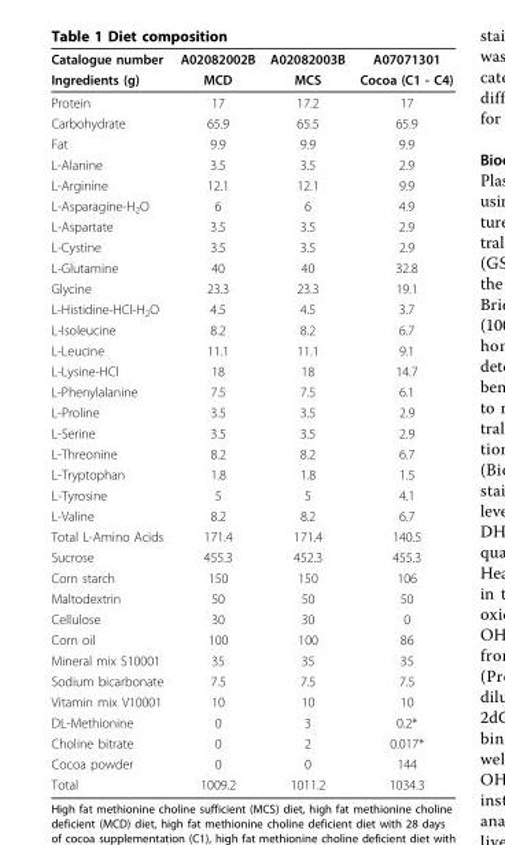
<table><thead><tr><td rowspan="2">Catalogue number Ingredients (g)</td><td rowspan="2">A02082002B MCD</td><td rowspan="2">A02082003B MCS</td><td rowspan="2">A07071301 Cocoa (C1 - C4)</td></tr><tr></tr></thead><tbody><tr><td>Protein</td><td>17</td><td>17.2</td><td>17</td></tr><tr><td>Carbohydrate</td><td>65.9</td><td>65.5</td><td>65.9</td></tr><tr><td>Fat</td><td>9.9</td><td>9.9</td><td>9.9</td></tr><tr><td>L-Alanine</td><td>3.5</td><td>3.5</td><td>2.9</td></tr><tr><td>L-Arginine</td><td>12.1</td><td>12.1</td><td>9.9</td></tr><tr><td>L-Asparagine-H<sub>2</sub>O</td><td>6</td><td>6</td><td>4.9</td></tr><tr><td>L-Aspartate</td><td>3.5</td><td>3.5</td><td>2.9</td></tr><tr><td>L-Cystine</td><td>3.5</td><td>3.5</td><td>2.9</td></tr><tr><td>L-Glutamine</td><td>40</td><td>40</td><td>32.8</td></tr><tr><td>Glycine</td><td>23.3</td><td>23.3</td><td>19.1</td></tr><tr><td>L-Histidine-HCl-H<sub>2</sub>O</td><td>4.5</td><td>4.5</td><td>3.7</td></tr><tr><td>L-Isoleucine</td><td>8.2</td><td>8.2</td><td>6.7</td></tr><tr><td>L-Leucine</td><td>11.1</td><td>11.1</td><td>9.1</td></tr><tr><td>L-Lysine-HCl</td><td>18</td><td>18</td><td>14.7</td></tr><tr><td>L-Phenylalanine</td><td>7.5</td><td>7.5</td><td>6.1</td></tr><tr><td>L-Proline</td><td>3.5</td><td>3.5</td><td>2.9</td></tr><tr><td>L-Serine</td><td>3.5</td><td>3.5</td><td>2.9</td></tr><tr><td>L-Threonine</td><td>8.2</td><td>8.2</td><td>6.7</td></tr><tr><td>L-Tryptophan</td><td>1.8</td><td>1.8</td><td>1.5</td></tr><tr><td>L-Tyrosine</td><td>5</td><td>5</td><td>4.1</td></tr><tr><td>L-Valine</td><td>8.2</td><td>8.2</td><td>6.7</td></tr><tr><td>Total L-Amino Acids</td><td>171.4</td><td>171.4</td><td>140.5</td></tr><tr><td>Sucrose</td><td>455.3</td><td>452.3</td><td>455.3</td></tr><tr><td>Corn starch</td><td>150</td><td>150</td><td>106</td></tr><tr><td>Maltodextrin</td><td>50</td><td>50</td><td>50</td></tr><tr><td>Cellulose</td><td>30</td><td>30</td><td>0</td></tr><tr><td>Corn oil</td><td>100</td><td>100</td><td>86</td></tr><tr><td>Mineral mix S10001</td><td>35</td><td>35</td><td>35</td></tr><tr><td>Sodium bicarbonate</td><td>7.5</td><td>7.5</td><td>7.5</td></tr><tr><td>Vitamin mix V10001</td><td>10</td><td>10</td><td>10</td></tr><tr><td>DL-Methionine</td><td>0</td><td>3</td><td>0.2*</td></tr><tr><td>Choline bitrate</td><td>0</td><td>2</td><td>0.017*</td></tr><tr><td>Cocoa powder</td><td>0</td><td>0</td><td>144</td></tr><tr><td>Total</td><td>1009.2</td><td>1011.2</td><td>1034.3</td></tr></tbody></table>